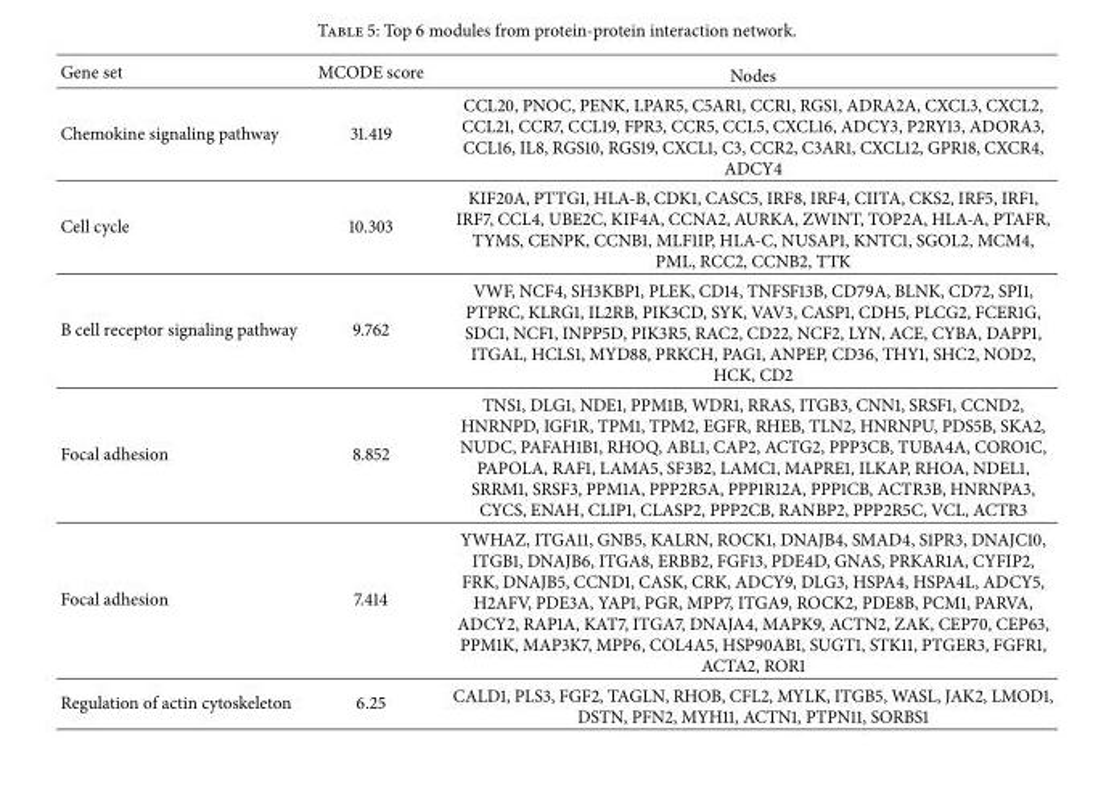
<table><thead><tr><td>Gene set</td><td>MCODE score</td><td>Nodes</td></tr></thead><tbody><tr><td>Chemokine signaling pathway</td><td>31.419</td><td>CCL20, PNOC, PENK, LPAR5, C5AR1, CCR1, RGS1, ADRA2A, CXCL3, CXCL2, CCL21, CCR7, CCL19, FPR3, CCR5, CCL5, CXCL16, ADCY3, P2RY13, ADORA3, CCL16, IL8, RGS10, RGS19, CXCL1, C3, CCR2, C3AR1, CXCL12, GPR18, CXCR4, ADCY4</td></tr><tr><td>Cell cycle</td><td>10.303</td><td>KIF20A, PTTG1, HLA-B, CDK1, CASC5, IRF8, IRF4, CIITA, CKS2, IRF5, IRF1, IRF7, CCL4, UBE2C, KIF4A, CCNA2, AURKA, ZWINT, TOP2A, HLA-A, PTAFR, TYMS, CENPK, CCNB1, MLF1IP, HLA-C, NUSAP1, KNTC1, SGOL2, MCM4, PML, RCC2, CCNB2, TTK</td></tr><tr><td>B cell receptor signaling pathway</td><td>9.762</td><td>VWF, NCF4, SH3KBP1, PLEK, CD14, TNFSF13B, CD79A, BLNK, CD72, SPI1, PTPRC, KLRG1, IL2RB, PIK3CD, SYK, VAV3, CASP1, CDH5, PLCG2, FCER1G, SDC1, NCF1, INPP5D, PIK3R5, RAC2, CD22, NCF2, LYN, ACE, CYBA, DAPP1, ITGAL, HCLS1, MYD88, PRKCH, PAG1, ANPEP, CD36, THY1, SHC2, NOD2, HCK, CD2</td></tr><tr><td>Focal adhesion</td><td>8.852</td><td>TNS1, DLG1, NDE1, PPM1B, WDR1, RRAS, ITGB3, CNN1, SRSF1, CCND2, HNRNPD, IGF1R, TPM1, TPM2, EGFR, RHEB, TLN2, HNRNPU, PDS5B, SKA2, NUDC, PAFAH1B1, RHOQ, ABL1, CAP2, ACTG2, PPP3CB, TUBA4A, CORO1C, PAPOLA, RAF1, LAMA5, SF3B2, LAMC1, MAPRE1, ILKAP, RHOA, NDEL1, SRRM1, SRSF3, PPM1A, PPP2R5A, PPP1R12A, PPP1CB, ACTR3B, HNRNPA3, CYCS, ENAH, CLIP1, CLASP2, PPP2CB, RANBP2, PPP2R5C, VCL, ACTR3</td></tr><tr><td>Focal adhesion</td><td>7.414</td><td>YWHAZ, ITGA11, GNB5, KALRN, ROCK1, DNAJB4, SMAD4, S1PR3, DNAJC10, ITGB1, DNAJB6, ITGA8, ERBB2, FGF13, PDE4D, GNAS, PRKAR1A, CYFIP2, FRK, DNAJB5, CCND1, CASK, CRK, ADCY9, DLG3, HSPA4, HSPA4L, ADCY5, H2AFV, PDE3A, YAP1, PGR, MPP7, ITGA9, ROCK2, PDE8B, PCM1, PARVA, ADCY2, RAP1A, KAT7, ITGA7, DNAJA4, MAPK9, ACTN2, ZAK, CEP70, CEP63, PPM1K, MAP3K7, MPP6, COL4A5, HSP90AB1, SUGT1, STK11, PTGER3, FGFR1, ACTA2, ROR1</td></tr><tr><td>Regulation of actin cytoskeleton</td><td>6.25</td><td>CALD1, PLS3, FGF2, TAGLN, RHOB, CFL2, MYLK, ITGB5, WASL, JAK2, LMOD1, DSTN, PFN2, MYH11, ACTN1, PTPN11, SORBS1</td></tr></tbody></table>